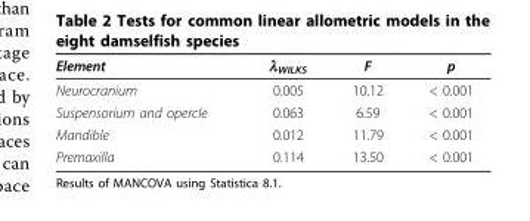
<table><thead><tr><td>Element</td><td>λ<sub>WILKS</sub></td><td>F</td><td>p</td></tr></thead><tbody><tr><td>Neurocranium</td><td>0.005</td><td>10.12</td><td>&lt; 0.001</td></tr><tr><td>Suspensorium and opercle</td><td>0.063</td><td>6.59</td><td>&lt; 0.001</td></tr><tr><td>Mandible</td><td>0.012</td><td>11.79</td><td>&lt; 0.001</td></tr><tr><td>Premaxilla</td><td>0.114</td><td>13.50</td><td>&lt; 0.001</td></tr></tbody></table>